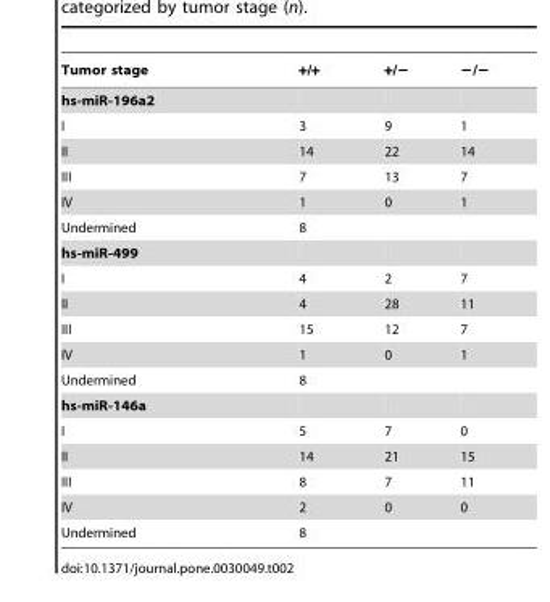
<table><thead><tr><td>Tumor stage</td><td>+/+</td><td>+/−</td><td>−/−</td></tr></thead><tbody><tr><td colspan="4">hs-miR-196a2</td></tr><tr><td>I</td><td>3</td><td>9</td><td>1</td></tr><tr><td>II</td><td>14</td><td>22</td><td>14</td></tr><tr><td>III</td><td>7</td><td>13</td><td>7</td></tr><tr><td>IV</td><td>1</td><td>0</td><td>1</td></tr><tr><td>Undermined</td><td>8</td><td></td><td></td></tr><tr><td colspan="4">hs-miR-499</td></tr><tr><td>I</td><td>4</td><td>2</td><td>7</td></tr><tr><td>II</td><td>4</td><td>28</td><td>11</td></tr><tr><td>III</td><td>15</td><td>12</td><td>7</td></tr><tr><td>IV</td><td>1</td><td>0</td><td>1</td></tr><tr><td>Undermined</td><td>8</td><td></td><td></td></tr><tr><td colspan="4">hs-miR-146a</td></tr><tr><td>I</td><td>5</td><td>7</td><td>0</td></tr><tr><td>II</td><td>14</td><td>21</td><td>15</td></tr><tr><td>III</td><td>8</td><td>7</td><td>11</td></tr><tr><td>IV</td><td>2</td><td>0</td><td>0</td></tr><tr><td>Undermined</td><td>8</td><td></td><td></td></tr></tbody></table>